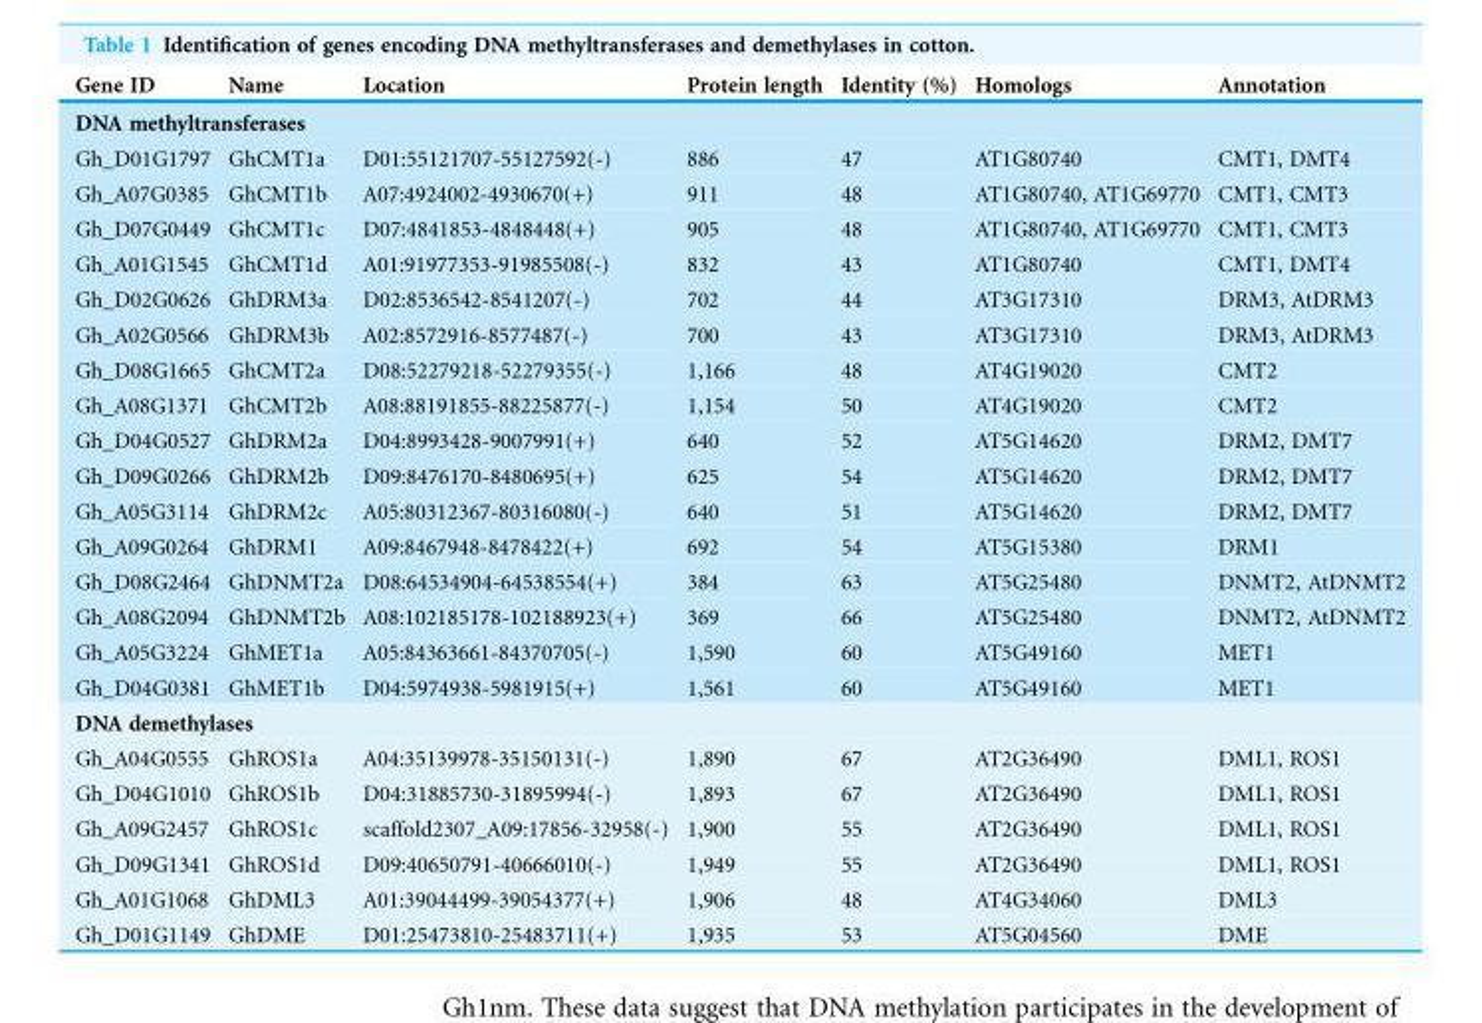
<table><thead><tr><td>Gene ID</td><td>Name</td><td>Location</td><td>Protein length</td><td>Identity (%)</td><td>Homologs</td><td>Annotation</td></tr></thead><tbody><tr><td colspan="7">DNA methyltransferases</td></tr><tr><td>Gh_D01G1797</td><td>GhCMT1a</td><td>D01:55121707-55127592(-)</td><td>886</td><td>47</td><td>AT1G80740</td><td>CMT1, DMT4</td></tr><tr><td>Gh_A07G0385</td><td>GhCMT1b</td><td>A07:4924002-4930670(+)</td><td>911</td><td>48</td><td>AT1G80740, AT1G69770</td><td>CMT1, CMT3</td></tr><tr><td>Gh_D07G0449</td><td>GhCMT1c</td><td>D07:4841853-4848448(+)</td><td>905</td><td>48</td><td>AT1G80740, AT1G69770</td><td>CMT1, CMT3</td></tr><tr><td>Gh_A01G1545</td><td>GhCMT1d</td><td>A01:91977353-91985508(-)</td><td>832</td><td>43</td><td>AT1G80740</td><td>CMT1, DMT4</td></tr><tr><td>Gh_D02G0626</td><td>GhDRM3a</td><td>D02:8536542-8541207(-)</td><td>702</td><td>44</td><td>AT3G17310</td><td>DRM3, AtDRM3</td></tr><tr><td>Gh_A02G0566</td><td>GhDRM3b</td><td>A02:8572916-8577487(-)</td><td>700</td><td>43</td><td>AT3G17310</td><td>DRM3, AtDRM3</td></tr><tr><td>Gh_D08G1665</td><td>GhCMT2a</td><td>D08:52279218-52279355(-)</td><td>1,166</td><td>48</td><td>AT4G19020</td><td>CMT2</td></tr><tr><td>Gh_A08G1371</td><td>GhCMT2b</td><td>A08:88191855-88225877(-)</td><td>1,154</td><td>50</td><td>AT4G19020</td><td>CMT2</td></tr><tr><td>Gh_D04G0527</td><td>GhDRM2a</td><td>D04:8993428-9007991(+)</td><td>640</td><td>52</td><td>AT5G14620</td><td>DRM2, DMT7</td></tr><tr><td>Gh_D09G0266</td><td>GhDRM2b</td><td>D09:8476170-8480695(+)</td><td>625</td><td>54</td><td>AT5G14620</td><td>DRM2, DMT7</td></tr><tr><td>Gh_A05G3114</td><td>GhDRM2c</td><td>A05:80312367-80316080(-)</td><td>640</td><td>51</td><td>AT5G14620</td><td>DRM2, DMT7</td></tr><tr><td>Gh_A09G0264</td><td>GhDRM1</td><td>A09:8467948-8478422(+)</td><td>692</td><td>54</td><td>AT5G15380</td><td>DRM1</td></tr><tr><td>Gh_D08G2464</td><td>GhDNMT2a</td><td>D08:64534904-64538554(+)</td><td>384</td><td>63</td><td>AT5G25480</td><td>DNMT2, AtDNMT2</td></tr><tr><td>Gh_A08G2094</td><td>GhDNMT2b</td><td>A08:102185178-102188923(+)</td><td>369</td><td>66</td><td>AT5G25480</td><td>DNMT2, AtDNMT2</td></tr><tr><td>Gh_A05G3224</td><td>GhMET1a</td><td>A05:84363661-84370705(-)</td><td>1,590</td><td>60</td><td>AT5G49160</td><td>MET1</td></tr><tr><td>Gh_D04G0381</td><td>GhMET1b</td><td>D04:5974938-5981915(+)</td><td>1,561</td><td>60</td><td>AT5G49160</td><td>MET1</td></tr><tr><td colspan="7">DNA demethylases</td></tr><tr><td>Gh_A04G0555</td><td>GhROS1a</td><td>A04:35139978-35150131(-)</td><td>1,890</td><td>67</td><td>AT2G36490</td><td>DML1, ROS1</td></tr><tr><td>Gh_D04G1010</td><td>GhROS1b</td><td>D04:31885730-31895994(-)</td><td>1,893</td><td>67</td><td>AT2G36490</td><td>DML1, ROS1</td></tr><tr><td>Gh_A09G2457</td><td>GhROS1c</td><td>scaffold2307_A09:17856-32958(-)</td><td>1,900</td><td>55</td><td>AT2G36490</td><td>DML1, ROS1</td></tr><tr><td>Gh_D09G1341</td><td>GhROS1d</td><td>D09:40650791-40666010(-)</td><td>1,949</td><td>55</td><td>AT2G36490</td><td>DML1, ROS1</td></tr><tr><td>Gh_A01G1068</td><td>GhDML3</td><td>A01:39044499-39054377(+)</td><td>1,906</td><td>48</td><td>AT4G34060</td><td>DML3</td></tr><tr><td>Gh_D01G1149</td><td>GhDME</td><td>D01:25473810-25483711(+)</td><td>1,935</td><td>53</td><td>AT5G04560</td><td>DME</td></tr></tbody></table>